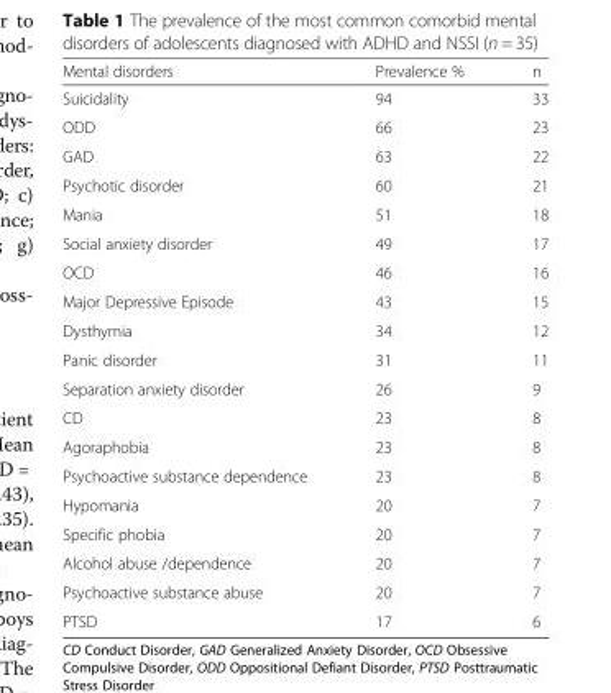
<table><thead><tr><td>Mental disorders</td><td>Prevalence %</td><td>n</td></tr></thead><tbody><tr><td>Suicidality</td><td>94</td><td>33</td></tr><tr><td>ODD</td><td>66</td><td>23</td></tr><tr><td>GAD</td><td>63</td><td>22</td></tr><tr><td>Psychotic disorder</td><td>60</td><td>21</td></tr><tr><td>Mania</td><td>51</td><td>18</td></tr><tr><td>Social anxiety disorder</td><td>49</td><td>17</td></tr><tr><td>OCD</td><td>46</td><td>16</td></tr><tr><td>Major Depressive Episode</td><td>43</td><td>15</td></tr><tr><td>Dysthymia</td><td>34</td><td>12</td></tr><tr><td>Panic disorder</td><td>31</td><td>11</td></tr><tr><td>Separation anxiety disorder</td><td>26</td><td>9</td></tr><tr><td>CD</td><td>23</td><td>8</td></tr><tr><td>Agoraphobia</td><td>23</td><td>8</td></tr><tr><td>Psychoactive substance dependence</td><td>23</td><td>8</td></tr><tr><td>Hypomania</td><td>20</td><td>7</td></tr><tr><td>Specific phobia</td><td>20</td><td>7</td></tr><tr><td>Alcohol abuse /dependence</td><td>20</td><td>7</td></tr><tr><td>Psychoactive substance abuse</td><td>20</td><td>7</td></tr><tr><td>PTSD</td><td>17</td><td>6</td></tr></tbody></table>